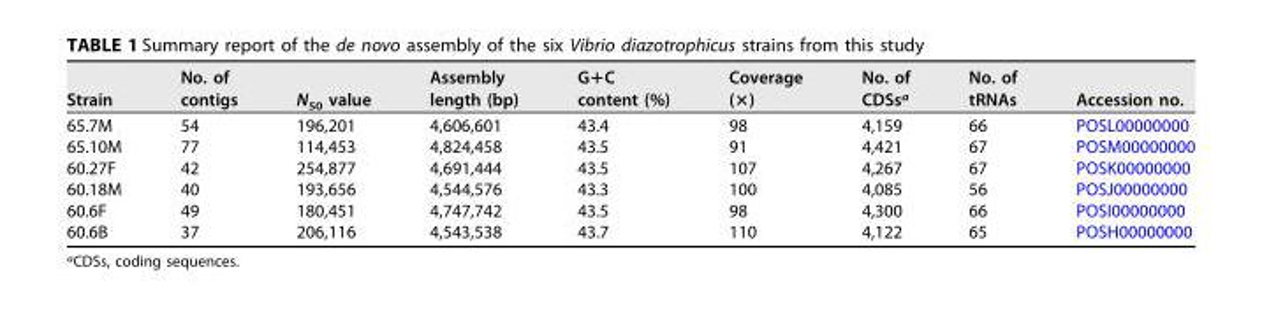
<table><thead><tr><td>Strain</td><td>No. of contigs</td><td>N<sub>50</sub> value</td><td>Assembly length (bp)</td><td>G+C content (%)</td><td>Coverage (×)</td><td>No. of CDSs<sup>a</sup></td><td>No. of tRNAs</td><td>Accession no.</td></tr></thead><tbody><tr><td>65.7M</td><td>54</td><td>196,201</td><td>4,606,601</td><td>43.4</td><td>98</td><td>4,159</td><td>66</td><td>POSL00000000</td></tr><tr><td>65.10M</td><td>77</td><td>114,453</td><td>4,824,458</td><td>43.5</td><td>91</td><td>4,421</td><td>67</td><td>POSM00000000</td></tr><tr><td>60.27F</td><td>42</td><td>254,877</td><td>4,691,444</td><td>43.5</td><td>107</td><td>4,267</td><td>67</td><td>POSK00000000</td></tr><tr><td>60.18M</td><td>40</td><td>193,656</td><td>4,544,576</td><td>43.3</td><td>100</td><td>4,085</td><td>56</td><td>POSJ00000000</td></tr><tr><td>60.6F</td><td>49</td><td>180,451</td><td>4,747,742</td><td>43.5</td><td>98</td><td>4,300</td><td>66</td><td>POSI00000000</td></tr><tr><td>60.6B</td><td>37</td><td>206,116</td><td>4,543,538</td><td>43.7</td><td>110</td><td>4,122</td><td>65</td><td>POSH00000000</td></tr></tbody></table>